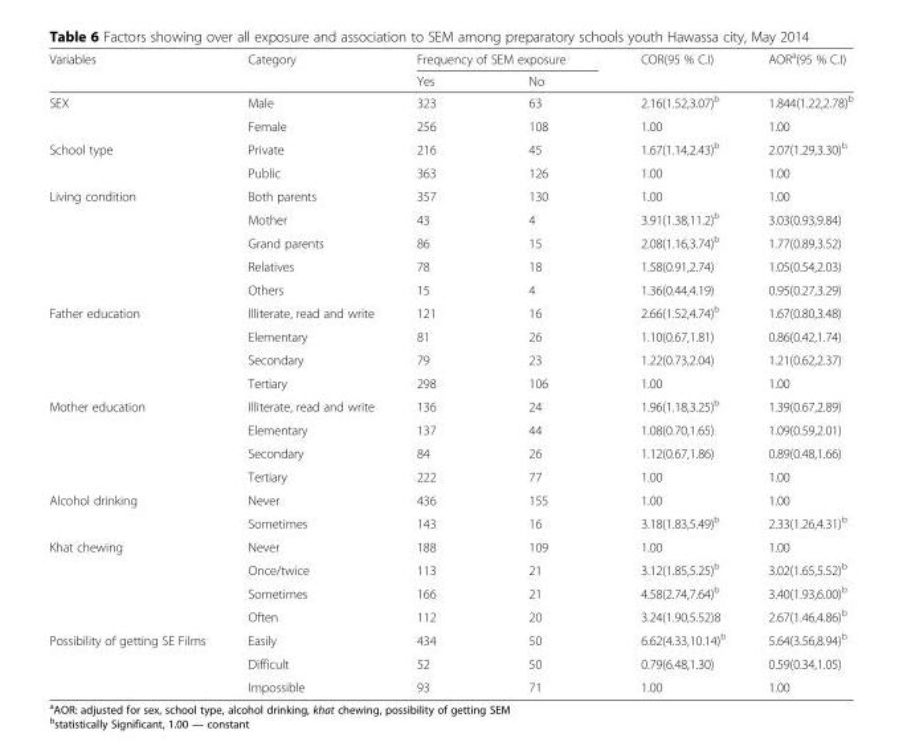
<table><thead><tr><td rowspan="2">Variables</td><td rowspan="2">Category</td><td colspan="2">Frequency of SEM exposure</td><td rowspan="2">COR(95 % C.I)</td><td rowspan="2">AOR<sup>a</sup>(95 % C.I)</td></tr><tr><td>Yes</td><td>No</td></tr></thead><tbody><tr><td rowspan="2">SEX</td><td>Male</td><td>323</td><td>63</td><td>2.16(1.52,3.07)<sup>b</sup></td><td>1.844(1.22,2.78)<sup>b</sup></td></tr><tr><td>Female</td><td>256</td><td>108</td><td>1.00</td><td>1.00</td></tr><tr><td rowspan="2">School type</td><td>Private</td><td>216</td><td>45</td><td>1.67(1.14,2.43)<sup>b</sup></td><td>2.07(1.29,3.30)<sup>b</sup></td></tr><tr><td>Public</td><td>363</td><td>126</td><td>1.00</td><td>1.00</td></tr><tr><td rowspan="5">Living condition</td><td>Both parents</td><td>357</td><td>130</td><td>1.00</td><td>1.00</td></tr><tr><td>Mother</td><td>43</td><td>4</td><td>3.91(1.38,11.2)<sup>b</sup></td><td>3.03(0.93,9.84)</td></tr><tr><td>Grand parents</td><td>86</td><td>15</td><td>2.08(1.16,3.74)<sup>b</sup></td><td>1.77(0.89,3.52)</td></tr><tr><td>Relatives</td><td>78</td><td>18</td><td>1.58(0.91,2.74)</td><td>1.05(0.54,2.03)</td></tr><tr><td>Others</td><td>15</td><td>4</td><td>1.36(0.44,4.19)</td><td>0.95(0.27,3.29)</td></tr><tr><td rowspan="4">Father education</td><td>Illiterate, read and write</td><td>121</td><td>16</td><td>2.66(1.52,4.74)<sup>b</sup></td><td>1.67(0.80,3.48)</td></tr><tr><td>Elementary</td><td>81</td><td>26</td><td>1.10(0.67,1.81)</td><td>0.86(0.42,1.74)</td></tr><tr><td>Secondary</td><td>79</td><td>23</td><td>1.22(0.73,2.04)</td><td>1.21(0.62,2.37)</td></tr><tr><td>Tertiary</td><td>298</td><td>106</td><td>1.00</td><td>1.00</td></tr><tr><td rowspan="4">Mother education</td><td>Illiterate, read and write</td><td>136</td><td>24</td><td>1.96(1.18,3.25)<sup>b</sup></td><td>1.39(0.67,2.89)</td></tr><tr><td>Elementary</td><td>137</td><td>44</td><td>1.08(0.70,1.65)</td><td>1.09(0.59,2.01)</td></tr><tr><td>Secondary</td><td>84</td><td>26</td><td>1.12(0.67,1.86)</td><td>0.89(0.48,1.66)</td></tr><tr><td>Tertiary</td><td>222</td><td>77</td><td>1.00</td><td>1.00</td></tr><tr><td rowspan="2">Alcohol drinking</td><td>Never</td><td>436</td><td>155</td><td>1.00</td><td>1.00</td></tr><tr><td>Sometimes</td><td>143</td><td>16</td><td>3.18(1.83,5.49)<sup>b</sup></td><td>2.33(1.26,4.31)<sup>b</sup></td></tr><tr><td rowspan="4">Khat chewing</td><td>Never</td><td>188</td><td>109</td><td>1.00</td><td>1.00</td></tr><tr><td>Once/twice</td><td>113</td><td>21</td><td>3.12(1.85,5.25)<sup>b</sup></td><td>3.02(1.65,5.52)<sup>b</sup></td></tr><tr><td>Sometimes</td><td>166</td><td>21</td><td>4.58(2.74,7.64)<sup>b</sup></td><td>3.40(1.93,6.00)<sup>b</sup></td></tr><tr><td>Often</td><td>112</td><td>20</td><td>3.24(1.90,5.52)8</td><td>2.67(1.46,4.86)<sup>b</sup></td></tr><tr><td rowspan="3">Possibility of getting SE Films</td><td>Easily</td><td>434</td><td>50</td><td>6.62(4.33,10.14)<sup>b</sup></td><td>5.64(3.56,8.94)<sup>b</sup></td></tr><tr><td>Difficult</td><td>52</td><td>50</td><td>0.79(6.48,1.30)</td><td>0.59(0.34,1.05)</td></tr><tr><td>Impossible</td><td>93</td><td>71</td><td>1.00</td><td>1.00</td></tr></tbody></table>